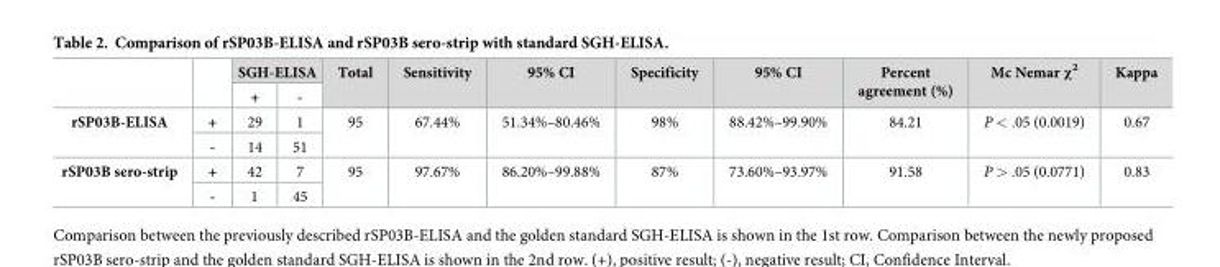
<table><thead><tr><td rowspan="2"></td><td rowspan="2"></td><td colspan="2">SGH-ELISA</td><td rowspan="2">Total</td><td rowspan="2">Sensitivity</td><td rowspan="2">95% CI</td><td rowspan="2">Specificity</td><td rowspan="2">95% CI</td><td rowspan="2">Percent agreement (%)</td><td rowspan="2">Mc Nemar χ<sup>2</sup></td><td rowspan="2">Kappa</td></tr><tr><td>+</td><td>-</td></tr></thead><tbody><tr><td rowspan="2">rSP03B-ELISA</td><td>+</td><td>29</td><td>1</td><td rowspan="2">95</td><td rowspan="2">67.44%</td><td rowspan="2">51.34%–80.46%</td><td rowspan="2">98%</td><td rowspan="2">88.42%–99.90%</td><td rowspan="2">84.21</td><td rowspan="2">P &lt; .05 (0.0019)</td><td rowspan="2">0.67</td></tr><tr><td>-</td><td>14</td><td>51</td></tr><tr><td rowspan="2">rSP03B sero-strip</td><td>+</td><td>42</td><td>7</td><td rowspan="2">95</td><td rowspan="2">97.67%</td><td rowspan="2">86.20%–99.88%</td><td rowspan="2">87%</td><td rowspan="2">73.60%–93.97%</td><td rowspan="2">91.58</td><td rowspan="2">P &gt; .05 (0.0771)</td><td rowspan="2">0.83</td></tr><tr><td>-</td><td>1</td><td>45</td></tr></tbody></table>